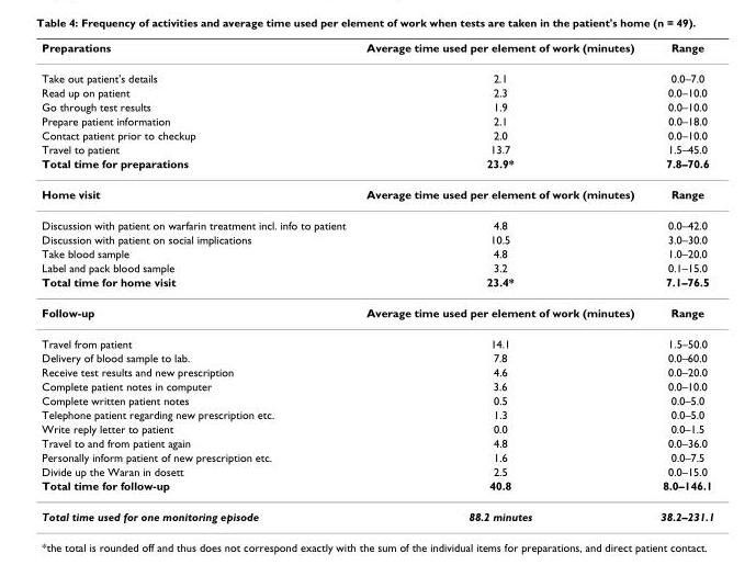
<table><thead><tr><td>Preparations</td><td>Average time used per element of work (minutes)</td><td>Range</td></tr></thead><tbody><tr><td>Take out patient&#x27;s details</td><td>2.1</td><td>0.0–7.0</td></tr><tr><td>Read up on patient</td><td>2.3</td><td>0.0–10.0</td></tr><tr><td>Go through test results</td><td>1.9</td><td>0.0–10.0</td></tr><tr><td>Prepare patient information</td><td>2.1</td><td>0.0–18.0</td></tr><tr><td>Contact patient prior to checkup</td><td>2.0</td><td>0.0–10.0</td></tr><tr><td>Travel to patient</td><td>13.7</td><td>1.5–45.0</td></tr><tr><td>Total time for preparations</td><td>23.9*</td><td>7.8–70.6</td></tr><tr><td>Home visit</td><td>Average time used per element of work (minutes)</td><td>Range</td></tr><tr><td>Discussion with patient on warfarin treatment incl. info to patient</td><td>4.8</td><td>0.0–42.0</td></tr><tr><td>Discussion with patient on social implications</td><td>10.5</td><td>3.0–30.0</td></tr><tr><td>Take blood sample</td><td>4.8</td><td>1.0–20.0</td></tr><tr><td>Label and pack blood sample</td><td>3.2</td><td>0.1–15.0</td></tr><tr><td>Total time for home visit</td><td>23.4*</td><td>7.1–76.5</td></tr><tr><td>Follow-up</td><td>Average time used per element of work (minutes)</td><td>Range</td></tr><tr><td>Travel from patient</td><td>14.1</td><td>1.5–50.0</td></tr><tr><td>Delivery of blood sample to lab.</td><td>7.8</td><td>0.0–60.0</td></tr><tr><td>Receive test results and new prescription</td><td>4.6</td><td>0.0–20.0</td></tr><tr><td>Complete patient notes in computer</td><td>3.6</td><td>0.0–10.0</td></tr><tr><td>Complete written patient notes</td><td>0.5</td><td>0.0–5.0</td></tr><tr><td>Telephone patient regarding new prescription etc.</td><td>1.3</td><td>0.0–5.0</td></tr><tr><td>Write reply letter to patient</td><td>0.0</td><td>0.0–1.5</td></tr><tr><td>Travel to and from patient again</td><td>4.8</td><td>0.0–36.0</td></tr><tr><td>Personally inform patient of new prescription etc.</td><td>1.6</td><td>0.0–7.5</td></tr><tr><td>Divide up the Waran in dosett</td><td>2.5</td><td>0.0–15.0</td></tr><tr><td>Total time for follow-up</td><td>40.8</td><td>8.0–146.1</td></tr><tr><td>Total time used for one monitoring episode</td><td>88.2 minutes</td><td>38.2–231.1</td></tr></tbody></table>